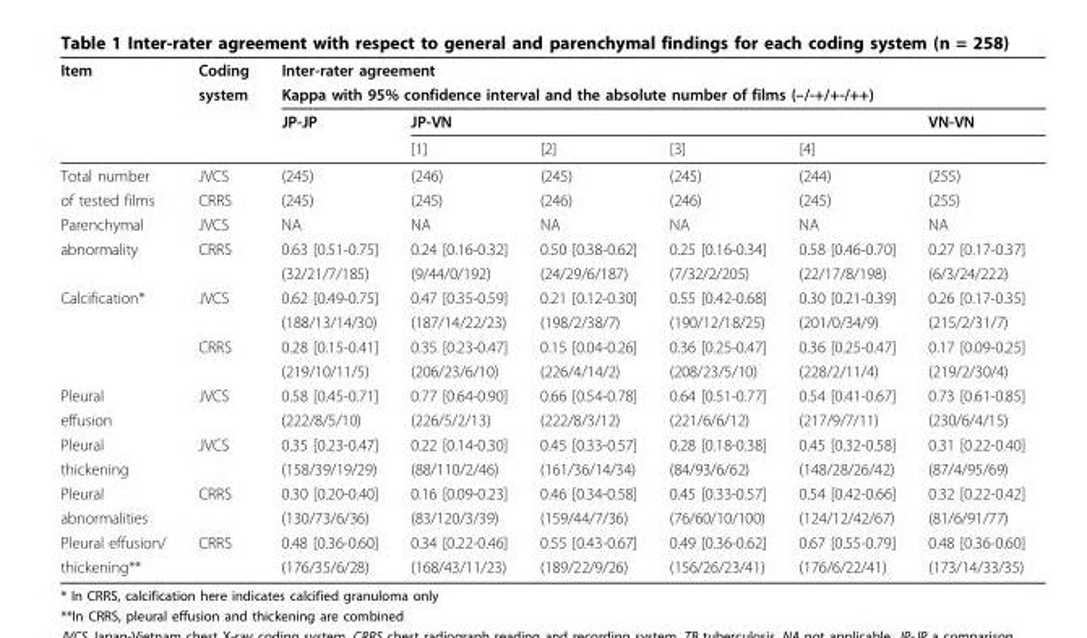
<table><thead><tr><td rowspan="4">Item</td><td rowspan="4">Coding system</td><td rowspan="2" colspan="6">Inter-rater agreement Kappa with 95% confidence interval and the absolute number of films (–/-+/+-/++)</td></tr><tr></tr><tr><td rowspan="2">JP-JP</td><td rowspan="2">JP-VN [1]</td><td rowspan="2">[2]</td><td rowspan="2">[3]</td><td rowspan="2">[4]</td><td rowspan="2">VN-VN</td></tr><tr></tr></thead><tbody><tr><td>Total number</td><td>JVCS</td><td>(245)</td><td>(246)</td><td>(245)</td><td>(245)</td><td>(244)</td><td>(255)</td></tr><tr><td>of tested films</td><td>CRRS</td><td>(245)</td><td>(245)</td><td>(246)</td><td>(246)</td><td>(245)</td><td>(255)</td></tr><tr><td>Parenchymal</td><td>JVCS</td><td>NA</td><td>NA</td><td>NA</td><td>NA</td><td>NA</td><td>NA</td></tr><tr><td rowspan="2">abnormality</td><td>CRRS</td><td>0.63 [0.51-0.75]</td><td>0.24 [0.16-0.32]</td><td>0.50 [0.38-0.62]</td><td>0.25 [0.16-0.34]</td><td>0.58 [0.46-0.70]</td><td>0.27 [0.17-0.37]</td></tr><tr><td></td><td>(32/21/7/185)</td><td>(9/44/0/192)</td><td>(24/29/6/187)</td><td>(7/32/2/205)</td><td>(22/17/8/198)</td><td>(6/3/24/222)</td></tr><tr><td rowspan="4">Calcification*</td><td>JVCS</td><td>0.62 [0.49-0.75]</td><td>0.47 [0.35-0.59]</td><td>0.21 [0.12-0.30]</td><td>0.55 [0.42-0.68]</td><td>0.30 [0.21-0.39]</td><td>0.26 [0.17-0.35]</td></tr><tr><td></td><td>(188/13/14/30)</td><td>(187/14/22/23)</td><td>(198/2/38/7)</td><td>(190/12/18/25)</td><td>(201/0/34/9)</td><td>(215/2/31/7)</td></tr><tr><td>CRRS</td><td>0.28 [0.15-0.41]</td><td>0.35 [0.23-0.47]</td><td>0.15 [0.04-0.26]</td><td>0.36 [0.25-0.47]</td><td>0.36 [0.25-0.47]</td><td>0.17 [0.09-0.25]</td></tr><tr><td></td><td>(219/10/11/5)</td><td>(206/23/6/10)</td><td>(226/4/14/2)</td><td>(208/23/5/10)</td><td>(228/2/11/4)</td><td>(219/2/30/4)</td></tr><tr><td>Pleural</td><td>JVCS</td><td>0.58 [0.45-0.71]</td><td>0.77 [0.64-0.90]</td><td>0.66 [0.54-0.78]</td><td>0.64 [0.51-0.77]</td><td>0.54 [0.41-0.67]</td><td>0.73 [0.61-0.85]</td></tr><tr><td>effusion</td><td></td><td>(222/8/5/10)</td><td>(226/5/2/13)</td><td>(222/8/3/12)</td><td>(221/6/6/12)</td><td>(217/9/7/11)</td><td>(230/6/4/15)</td></tr><tr><td>Pleural</td><td>JVCS</td><td>0.35 [0.23-0.47]</td><td>0.22 [0.14-0.30]</td><td>0.45 [0.33-0.57]</td><td>0.28 [0.18-0.38]</td><td>0.45 [0.32-0.58]</td><td>0.31 [0.22-0.40]</td></tr><tr><td>thickening</td><td></td><td>(158/39/19/29)</td><td>(88/110/2/46)</td><td>(161/36/14/34)</td><td>(84/93/6/62)</td><td>(148/28/26/42)</td><td>(87/4/95/69)</td></tr><tr><td>Pleural</td><td>CRRS</td><td>0.30 [0.20-0.40]</td><td>0.16 [0.09-0.23]</td><td>0.46 [0.34-0.58]</td><td>0.45 [0.33-0.57]</td><td>0.54 [0.42-0.66]</td><td>0.32 [0.22-0.42]</td></tr><tr><td>abnormalities</td><td></td><td>(130/73/6/36)</td><td>(83/120/3/39)</td><td>(159/44/7/36)</td><td>(76/60/10/100)</td><td>(124/12/42/67)</td><td>(81/6/91/77)</td></tr><tr><td>Pleural effusion/</td><td>CRRS</td><td>0.48 [0.36-0.60]</td><td>0.34 [0.22-0.46]</td><td>0.55 [0.43-0.67]</td><td>0.49 [0.36-0.62]</td><td>0.67 [0.55-0.79]</td><td>0.48 [0.36-0.60]</td></tr><tr><td>thickening**</td><td></td><td>(176/35/6/28)</td><td>(168/43/11/23)</td><td>(189/22/9/26)</td><td>(156/26/23/41)</td><td>(176/6/22/41)</td><td>(173/14/33/35)</td></tr></tbody></table>